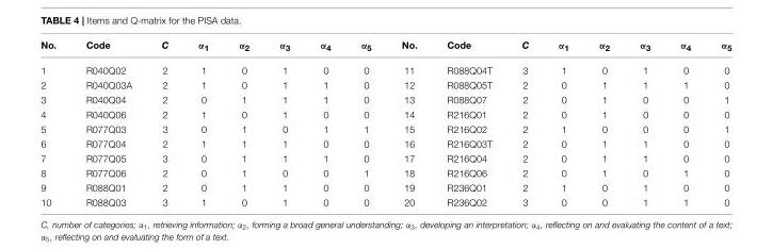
<table><thead><tr><td>No.</td><td>Code</td><td>C</td><td>α<sub>1</sub></td><td>α<sub>2</sub></td><td>α<sub>3</sub></td><td>α<sub>4</sub></td><td>α<sub>5</sub></td><td>No.</td><td>Code</td><td>C</td><td>α<sub>1</sub></td><td>α<sub>2</sub></td><td>α<sub>3</sub></td><td>α<sub>4</sub></td><td>α<sub>5</sub></td></tr></thead><tbody><tr><td>1</td><td>R040Q02</td><td>2</td><td>1</td><td>0</td><td>1</td><td>0</td><td>0</td><td>11</td><td>R088Q04T</td><td>3</td><td>1</td><td>0</td><td>1</td><td>0</td><td>0</td></tr><tr><td>2</td><td>R040Q03A</td><td>2</td><td>1</td><td>0</td><td>1</td><td>1</td><td>0</td><td>12</td><td>R088Q05T</td><td>2</td><td>0</td><td>1</td><td>1</td><td>1</td><td>0</td></tr><tr><td>3</td><td>R040Q04</td><td>2</td><td>0</td><td>1</td><td>1</td><td>1</td><td>0</td><td>13</td><td>R088Q07</td><td>2</td><td>0</td><td>1</td><td>0</td><td>0</td><td>1</td></tr><tr><td>4</td><td>R040Q06</td><td>2</td><td>1</td><td>0</td><td>1</td><td>0</td><td>0</td><td>14</td><td>R216Q01</td><td>2</td><td>0</td><td>1</td><td>0</td><td>0</td><td>0</td></tr><tr><td>5</td><td>R077Q03</td><td>3</td><td>0</td><td>1</td><td>0</td><td>1</td><td>1</td><td>15</td><td>R216Q02</td><td>2</td><td>1</td><td>0</td><td>0</td><td>0</td><td>1</td></tr><tr><td>6</td><td>R077Q04</td><td>2</td><td>1</td><td>1</td><td>1</td><td>0</td><td>0</td><td>16</td><td>R216Q03T</td><td>2</td><td>0</td><td>1</td><td>1</td><td>0</td><td>0</td></tr><tr><td>7</td><td>R077Q05</td><td>3</td><td>0</td><td>1</td><td>1</td><td>1</td><td>0</td><td>17</td><td>R216Q04</td><td>2</td><td>0</td><td>1</td><td>1</td><td>0</td><td>0</td></tr><tr><td>8</td><td>R077Q06</td><td>2</td><td>0</td><td>1</td><td>0</td><td>0</td><td>1</td><td>18</td><td>R216Q06</td><td>2</td><td>0</td><td>1</td><td>0</td><td>1</td><td>0</td></tr><tr><td>9</td><td>R088Q01</td><td>2</td><td>0</td><td>1</td><td>1</td><td>0</td><td>0</td><td>19</td><td>R236Q01</td><td>2</td><td>1</td><td>0</td><td>1</td><td>0</td><td>0</td></tr><tr><td>10</td><td>R088Q03</td><td>3</td><td>1</td><td>0</td><td>1</td><td>0</td><td>0</td><td>20</td><td>R236Q02</td><td>3</td><td>0</td><td>0</td><td>1</td><td>1</td><td>0</td></tr></tbody></table>